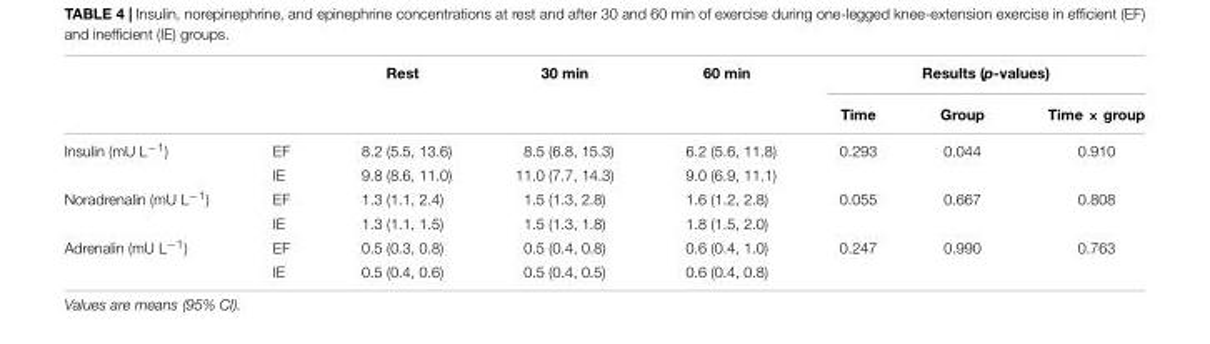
<table><thead><tr><td rowspan="2"></td><td rowspan="2"></td><td rowspan="2">Rest</td><td rowspan="2">30 min</td><td rowspan="2">60 min</td><td colspan="3">Results (p-values)</td></tr><tr><td>Time</td><td>Group</td><td>Time × group</td></tr></thead><tbody><tr><td rowspan="2">Insulin (mU L<sup>−1</sup>)</td><td>EF</td><td>8.2 (5.5, 13.6)</td><td>8.5 (6.8, 15.3)</td><td>6.2 (5.6, 11.8)</td><td>0.293</td><td>0.044</td><td>0.910</td></tr><tr><td>IE</td><td>9.8 (8.6, 11.0)</td><td>11.0 (7.7, 14.3)</td><td>9.0 (6.9, 11.1)</td><td></td><td></td><td></td></tr><tr><td rowspan="2">Noradrenalin (mU L<sup>−1</sup>)</td><td>EF</td><td>1.3 (1.1, 2.4)</td><td>1.5 (1.3, 2.8)</td><td>1.6 (1.2, 2.8)</td><td>0.055</td><td>0.667</td><td>0.808</td></tr><tr><td>IE</td><td>1.3 (1.1, 1.5)</td><td>1.5 (1.3, 1.8)</td><td>1.8 (1.5, 2.0)</td><td></td><td></td><td></td></tr><tr><td rowspan="2">Adrenalin (mU L<sup>−1</sup>)</td><td>EF</td><td>0.5 (0.3, 0.8)</td><td>0.5 (0.4, 0.8)</td><td>0.6 (0.4, 1.0)</td><td>0.247</td><td>0.990</td><td>0.763</td></tr><tr><td>IE</td><td>0.5 (0.4, 0.6)</td><td>0.5 (0.4, 0.5)</td><td>0.6 (0.4, 0.8)</td><td></td><td></td><td></td></tr></tbody></table>